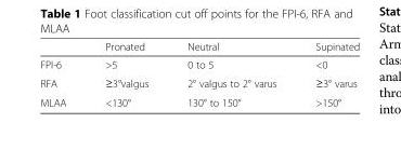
<table><thead><tr><td></td><td>Pronated</td><td>Neutral</td><td>Supinated</td></tr></thead><tbody><tr><td>FPI-6</td><td>&gt;5</td><td>0 to 5</td><td>&lt;0</td></tr><tr><td>RFA</td><td>≥3°valgus</td><td>2° valgus to 2° varus</td><td>≥3° varus</td></tr><tr><td>MLAA</td><td>&lt;130°</td><td>130° to 150°</td><td>&gt;150°</td></tr></tbody></table>